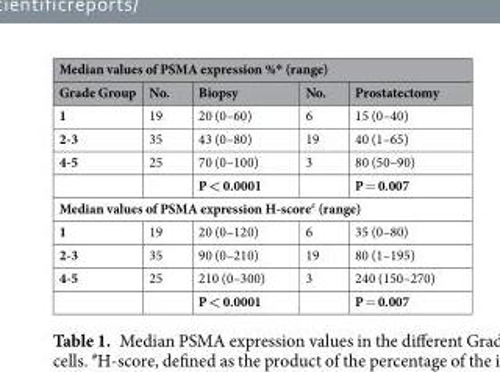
<table><thead><tr><td colspan="5">Median values of PSMA expression %* (range)</td></tr><tr><td>Grade Group</td><td>No.</td><td>Biopsy</td><td>No.</td><td>Prostatectomy</td></tr></thead><tbody><tr><td>1</td><td>19</td><td>20 (0–60)</td><td>6</td><td>15 (0–40)</td></tr><tr><td>2-3</td><td>35</td><td>43 (0–80)</td><td>19</td><td>40 (1–65)</td></tr><tr><td rowspan="2">4-5</td><td>25</td><td>70 (0–100)</td><td>3</td><td>80 (50–90)</td></tr><tr><td></td><td>P &lt; 0.0001</td><td></td><td>P = 0.007</td></tr><tr><td colspan="5">Median values of PSMA expression H-score<sup>#</sup> (range)</td></tr><tr><td>1</td><td>19</td><td>20 (0–120)</td><td>6</td><td>35 (0–80)</td></tr><tr><td>2-3</td><td>35</td><td>90 (0–210)</td><td>19</td><td>80 (1–195)</td></tr><tr><td rowspan="2">4-5</td><td>25</td><td>210 (0–300)</td><td>3</td><td>240 (150–270)</td></tr><tr><td></td><td>P &lt; 0.0001</td><td></td><td>P = 0.007</td></tr></tbody></table>